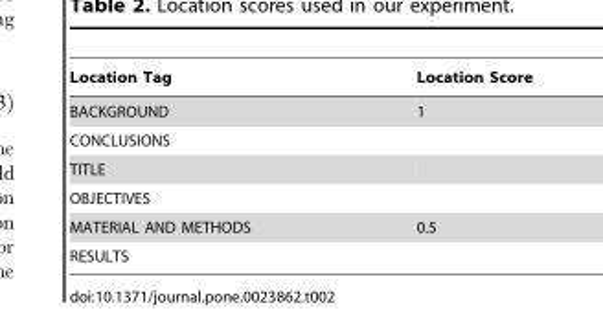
<table><thead><tr><td>Location Tag</td><td>Location Score</td></tr></thead><tbody><tr><td>BACKGROUND</td><td>1</td></tr><tr><td colspan="2">CONCLUSIONS</td></tr><tr><td colspan="2">TITLE</td></tr><tr><td colspan="2">OBJECTIVES</td></tr><tr><td>MATERIAL AND METHODS</td><td>0.5</td></tr><tr><td>RESULTS</td><td></td></tr></tbody></table>